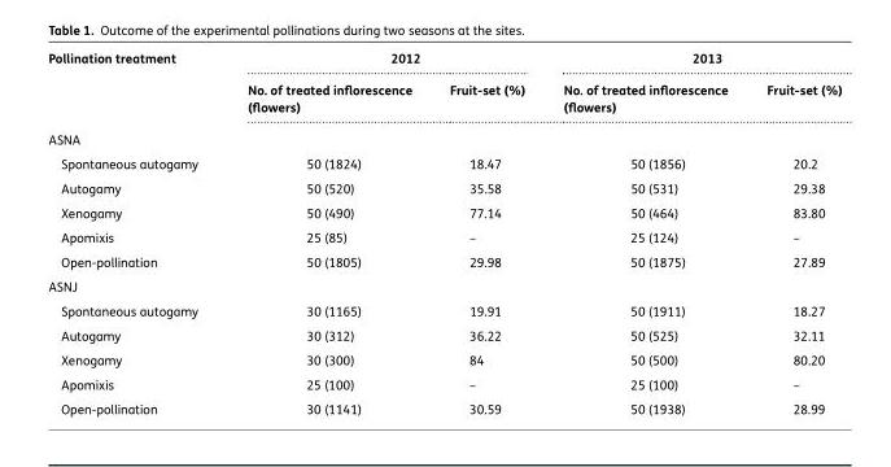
<table><thead><tr><td rowspan="2">Pollination treatment</td><td colspan="2">2012</td><td colspan="2">2013</td></tr><tr><td>No. of treated inflorescence (flowers)</td><td>Fruit-set (%)</td><td>No. of treated inflorescence (flowers)</td><td>Fruit-set (%)</td></tr></thead><tbody><tr><td colspan="5">ASNA</td></tr><tr><td>Spontaneous autogamy</td><td>50 (1824)</td><td>18.47</td><td>50 (1856)</td><td>20.2</td></tr><tr><td>Autogamy</td><td>50 (520)</td><td>35.58</td><td>50 (531)</td><td>29.38</td></tr><tr><td>Xenogamy</td><td>50 (490)</td><td>77.14</td><td>50 (464)</td><td>83.80</td></tr><tr><td>Apomixis</td><td>25 (85)</td><td>–</td><td>25 (124)</td><td>–</td></tr><tr><td>Open-pollination</td><td>50 (1805)</td><td>29.98</td><td>50 (1875)</td><td>27.89</td></tr><tr><td colspan="5">ASNJ</td></tr><tr><td>Spontaneous autogamy</td><td>30 (1165)</td><td>19.91</td><td>50 (1911)</td><td>18.27</td></tr><tr><td>Autogamy</td><td>30 (312)</td><td>36.22</td><td>50 (525)</td><td>32.11</td></tr><tr><td>Xenogamy</td><td>30 (300)</td><td>84</td><td>50 (500)</td><td>80.20</td></tr><tr><td>Apomixis</td><td>25 (100)</td><td>–</td><td>25 (100)</td><td>–</td></tr><tr><td>Open-pollination</td><td>30 (1141)</td><td>30.59</td><td>50 (1938)</td><td>28.99</td></tr></tbody></table>